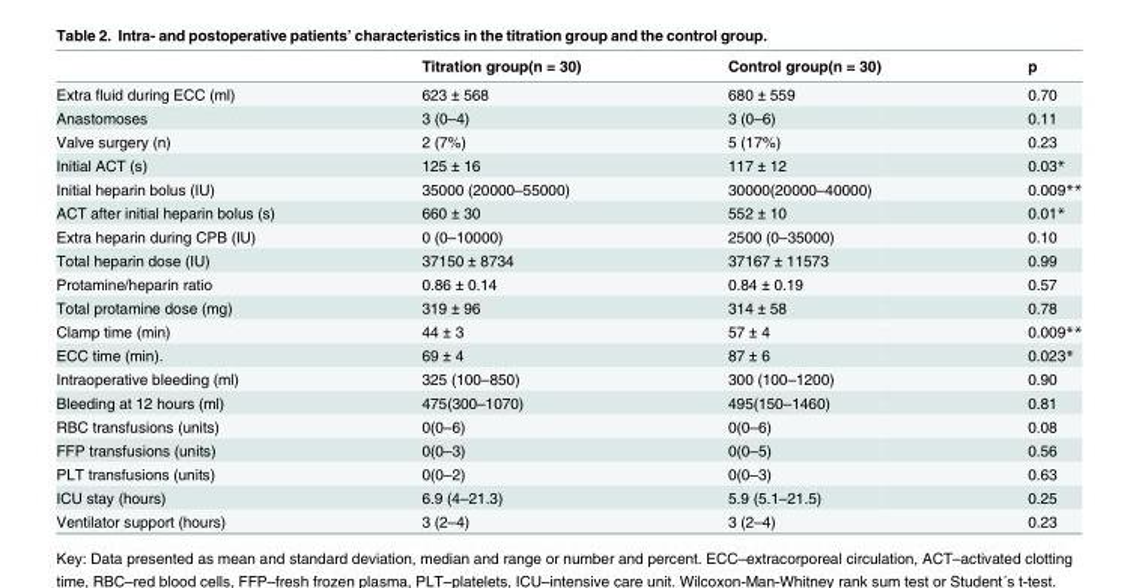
<table><thead><tr><td></td><td>Titration group(n = 30)</td><td>Control group(n = 30)</td><td>p</td></tr></thead><tbody><tr><td>Extra fluid during ECC (ml)</td><td>623 ± 568</td><td>680 ± 559</td><td>0.70</td></tr><tr><td>Anastomoses</td><td>3 (0–4)</td><td>3 (0–6)</td><td>0.11</td></tr><tr><td>Valve surgery (n)</td><td>2 (7%)</td><td>5 (17%)</td><td>0.23</td></tr><tr><td>Initial ACT (s)</td><td>125 ± 16</td><td>117 ± 12</td><td>0.03*</td></tr><tr><td>Initial heparin bolus (IU)</td><td>35000 (20000–55000)</td><td>30000(20000–40000)</td><td>0.009**</td></tr><tr><td>ACT after initial heparin bolus (s)</td><td>660 ± 30</td><td>552 ± 10</td><td>0.01*</td></tr><tr><td>Extra heparin during CPB (IU)</td><td>0 (0–10000)</td><td>2500 (0–35000)</td><td>0.10</td></tr><tr><td>Total heparin dose (IU)</td><td>37150 ± 8734</td><td>37167 ± 11573</td><td>0.99</td></tr><tr><td>Protamine/heparin ratio</td><td>0.86 ± 0.14</td><td>0.84 ± 0.19</td><td>0.57</td></tr><tr><td>Total protamine dose (mg)</td><td>319 ± 96</td><td>314 ± 58</td><td>0.78</td></tr><tr><td>Clamp time (min)</td><td>44 ± 3</td><td>57 ± 4</td><td>0.009**</td></tr><tr><td>ECC time (min).</td><td>69 ± 4</td><td>87 ± 6</td><td>0.023*</td></tr><tr><td>Intraoperative bleeding (ml)</td><td>325 (100–850)</td><td>300 (100–1200)</td><td>0.90</td></tr><tr><td>Bleeding at 12 hours (ml)</td><td>475(300–1070)</td><td>495(150–1460)</td><td>0.81</td></tr><tr><td>RBC transfusions (units)</td><td>0(0–6)</td><td>0(0–6)</td><td>0.08</td></tr><tr><td>FFP transfusions (units)</td><td>0(0–3)</td><td>0(0–5)</td><td>0.56</td></tr><tr><td>PLT transfusions (units)</td><td>0(0–2)</td><td>0(0–3)</td><td>0.63</td></tr><tr><td>ICU stay (hours)</td><td>6.9 (4–21.3)</td><td>5.9 (5.1–21.5)</td><td>0.25</td></tr><tr><td>Ventilator support (hours)</td><td>3 (2–4)</td><td>3 (2–4)</td><td>0.23</td></tr></tbody></table>